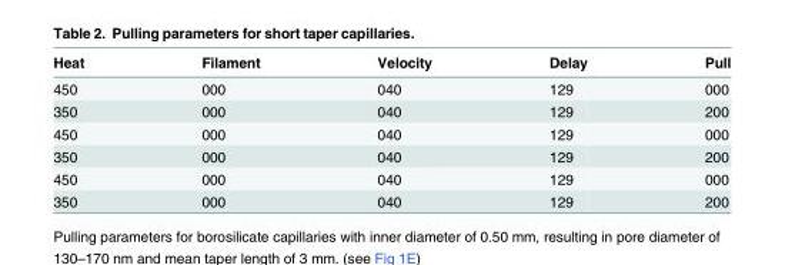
<table><thead><tr><td>Heat</td><td>Filament</td><td>Velocity</td><td>Delay</td><td>Pull</td></tr></thead><tbody><tr><td>450</td><td>000</td><td>040</td><td>129</td><td>000</td></tr><tr><td>350</td><td>000</td><td>040</td><td>129</td><td>200</td></tr><tr><td>450</td><td>000</td><td>040</td><td>129</td><td>000</td></tr><tr><td>350</td><td>000</td><td>040</td><td>129</td><td>200</td></tr><tr><td>450</td><td>000</td><td>040</td><td>129</td><td>000</td></tr><tr><td>350</td><td>000</td><td>040</td><td>129</td><td>200</td></tr></tbody></table>